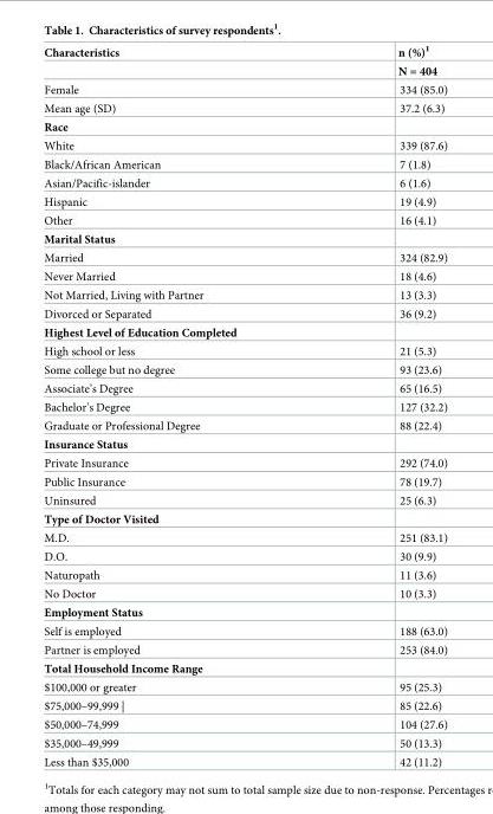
<table><thead><tr><td rowspan="2">Characteristics</td><td rowspan="2">n (%)<sup>1</sup> N = 404</td></tr><tr></tr></thead><tbody><tr><td>Female</td><td>334 (85.0)</td></tr><tr><td>Mean age (SD)</td><td>37.2 (6.3)</td></tr><tr><td colspan="2">Race</td></tr><tr><td>White</td><td>339 (87.6)</td></tr><tr><td>Black/African American</td><td>7 (1.8)</td></tr><tr><td>Asian/Pacific-islander</td><td>6 (1.6)</td></tr><tr><td>Hispanic</td><td>19 (4.9)</td></tr><tr><td>Other</td><td>16 (4.1)</td></tr><tr><td colspan="2">Marital Status</td></tr><tr><td>Married</td><td>324 (82.9)</td></tr><tr><td>Never Married</td><td>18 (4.6)</td></tr><tr><td>Not Married, Living with Partner</td><td>13 (3.3)</td></tr><tr><td>Divorced or Separated</td><td>36 (9.2)</td></tr><tr><td colspan="2">Highest Level of Education Completed</td></tr><tr><td>High school or less</td><td>21 (5.3)</td></tr><tr><td>Some college but no degree</td><td>93 (23.6)</td></tr><tr><td>Associate’s Degree</td><td>65 (16.5)</td></tr><tr><td>Bachelor’s Degree</td><td>127 (32.2)</td></tr><tr><td>Graduate or Professional Degree</td><td>88 (22.4)</td></tr><tr><td colspan="2">Insurance Status</td></tr><tr><td>Private Insurance</td><td>292 (74.0)</td></tr><tr><td>Public Insurance</td><td>78 (19.7)</td></tr><tr><td>Uninsured</td><td>25 (6.3)</td></tr><tr><td colspan="2">Type of Doctor Visited</td></tr><tr><td>M.D.</td><td>251 (83.1)</td></tr><tr><td>D.O.</td><td>30 (9.9)</td></tr><tr><td>Naturopath</td><td>11 (3.6)</td></tr><tr><td>No Doctor</td><td>10 (3.3)</td></tr><tr><td colspan="2">Employment Status</td></tr><tr><td>Self is employed</td><td>188 (63.0)</td></tr><tr><td>Partner is employed</td><td>253 (84.0)</td></tr><tr><td colspan="2">Total Household Income Range</td></tr><tr><td>$100,000 or greater</td><td>95 (25.3)</td></tr><tr><td>$75,000–99,999 |</td><td>85 (22.6)</td></tr><tr><td>$50,000–74,999</td><td>104 (27.6)</td></tr><tr><td>$35,000–49,999</td><td>50 (13.3)</td></tr><tr><td>Less than $35,000</td><td>42 (11.2)</td></tr></tbody></table>